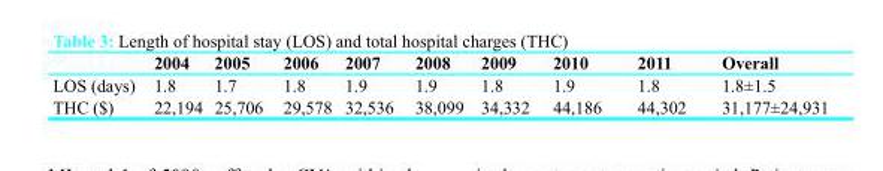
<table><thead><tr><td></td><td>2004</td><td>2005</td><td>2006</td><td>2007</td><td>2008</td><td>2009</td><td>2010</td><td>2011</td><td>Overall</td></tr></thead><tbody><tr><td>LOS (days)</td><td>1.8</td><td>1.7</td><td>1.8</td><td>1.9</td><td>1.9</td><td>1.8</td><td>1.9</td><td>1.8</td><td>1.8±1.5</td></tr><tr><td>THC ($)</td><td>22,194</td><td>25,706</td><td>29,578</td><td>32,536</td><td>38,099</td><td>34,332</td><td>44,186</td><td>44,302</td><td>31,177±24,931</td></tr></tbody></table>